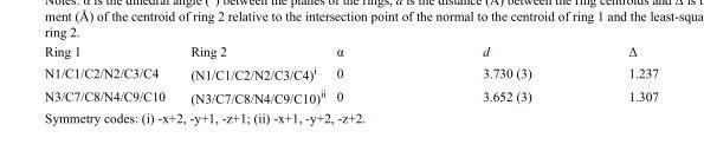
<table><tbody><tr><td>Ring 1</td><td>Ring 2</td><td>α</td><td>d</td><td>Δ</td></tr><tr><td>N1/C1/C2/N2/C3/C4</td><td>(N1/C1/C2/N2/C3/C4)<sup>i</sup></td><td>0</td><td>3.730 (3)</td><td>1.237</td></tr><tr><td>N3/C7/C8/N4/C9/C10</td><td>(N3/C7/C8/N4/C9/C10)<sup>ii</sup></td><td>0</td><td>3.652 (3)</td><td>1.307</td></tr></tbody></table>